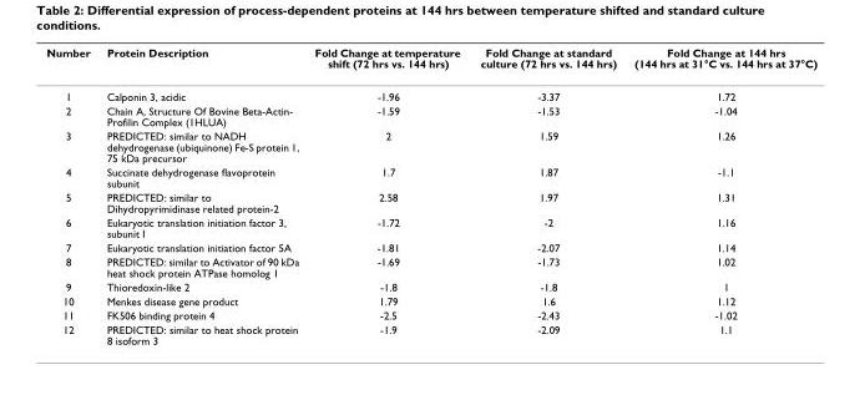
<table><thead><tr><td>Number</td><td>Protein Description</td><td>Fold Change at temperature shift (72 hrs vs. 144 hrs)</td><td>Fold Change at standard culture (72 hrs vs. 144 hrs)</td><td>Fold Change at 144 hrs (144 hrs at 31°C vs. 144 hrs at 37°C)</td></tr></thead><tbody><tr><td>1</td><td>Calponin 3, acidic</td><td>-1.96</td><td>-3.37</td><td>1.72</td></tr><tr><td>2</td><td>Chain A, Structure Of Bovine Beta-Actin- Profilin Complex (1HLUA)</td><td>-1.59</td><td>-1.53</td><td>-1.04</td></tr><tr><td>3</td><td>PREDICTED: similar to NADH dehydrogenase (ubiquinone) Fe-S protein 1, 75 kDa precursor</td><td>2</td><td>1.59</td><td>1.26</td></tr><tr><td>4</td><td>Succinate dehydrogenase flavoprotein subunit</td><td>1.7</td><td>1.87</td><td>-1.1</td></tr><tr><td>5</td><td>PREDICTED: similar to Dihydropyrimidinase related protein-2</td><td>2.58</td><td>1.97</td><td>1.31</td></tr><tr><td>6</td><td>Eukaryotic translation initiation factor 3, subunit I</td><td>-1.72</td><td>-2</td><td>1.16</td></tr><tr><td>7</td><td>Eukaryotic translation initiation factor 5A</td><td>-1.81</td><td>-2.07</td><td>1.14</td></tr><tr><td>8</td><td>PREDICTED: similar to Activator of 90 kDa heat shock protein ATPase homolog 1</td><td>-1.69</td><td>-1.73</td><td>1.02</td></tr><tr><td>9</td><td>Thioredoxin-like 2</td><td>-1.8</td><td>-1.8</td><td>1</td></tr><tr><td>10</td><td>Menkes disease gene product</td><td>1.79</td><td>1.6</td><td>1.12</td></tr><tr><td>11</td><td>FK506 binding protein 4</td><td>-2.5</td><td>-2.43</td><td>-1.02</td></tr><tr><td>12</td><td>PREDICTED: similar to heat shock protein 8 isoform 3</td><td>-1.9</td><td>-2.09</td><td>1.1</td></tr></tbody></table>